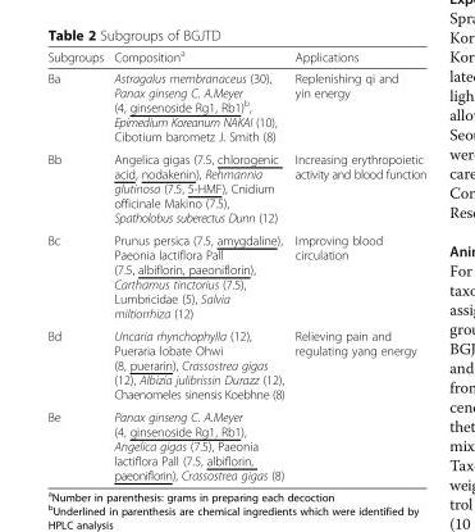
<table><thead><tr><td>Subgroups</td><td>Composition<sup>a</sup></td><td>Applications</td></tr></thead><tbody><tr><td>Ba</td><td>Astragalus membranaceus (30), Panax ginseng C. A.Meyer (4, ginsenoside Rg1, Rb1)<sup>b</sup>, Epimedium Koreanum NAKAI (10), Cibotium barometz J. Smith (8)</td><td>Replenishing qi and yin energy</td></tr><tr><td>Bb</td><td>Angelica gigas (7.5, chlorogenic acid, nodakenin), Rehmannia glutinosa (7.5, 5-HMF), Cnidium officinale Makino (7.5), Spatholobus suberectus Dunn (12)</td><td>Increasing erythropoietic activity and blood function</td></tr><tr><td>Bc</td><td>Prunus persica (7.5, amygdaline), Paeonia lactiflora Pall (7.5, albiflorin, paeoniflorin), Carthamus tinctorius (7.5), Lumbricidae (5), Salvia miltiorrhiza (12)</td><td>Improving blood circulation</td></tr><tr><td>Bd</td><td>Uncaria rhynchophylla (12), Pueraria lobate Ohwi (8, puerarin), Crassostrea gigas (12), Albizia julibrissin Durazz (12), Chaenomeles sinensis Koebhne (8)</td><td>Relieving pain and regulating yang energy</td></tr><tr><td>Be</td><td>Panax ginseng C. A.Meyer (4, ginsenoside Rg1, Rb1), Angelica gigas (7.5), Paeonia lactiflora Pall (7.5, albiflorin, paeoniflorin), Crassostrea gigas (8)</td><td></td></tr></tbody></table>